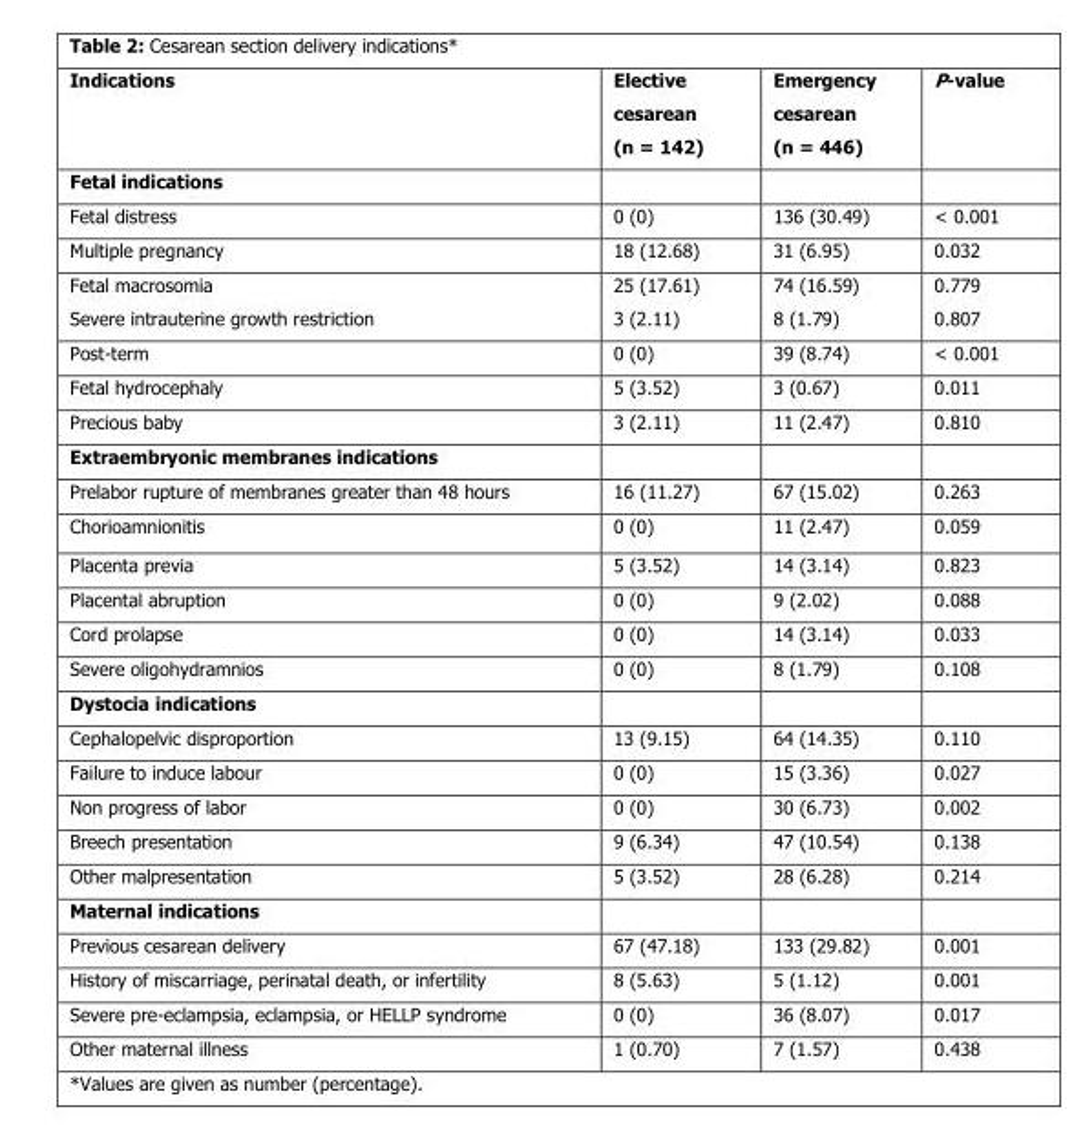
<table><thead><tr><td>Indications</td><td>Elective cesarean (n = 142)</td><td>Emergency cesarean (n = 446)</td><td>P-value</td></tr></thead><tbody><tr><td colspan="4">Fetal indications</td></tr><tr><td>Fetal distress</td><td>0 (0)</td><td>136 (30.49)</td><td>&lt; 0.001</td></tr><tr><td>Multiple pregnancy</td><td>18 (12.68)</td><td>31 (6.95)</td><td>0.032</td></tr><tr><td>Fetal macrosomia Severe intrauterine growth restriction</td><td>25 (17.61) 3 (2.11)</td><td>74 (16.59) 8 (1.79)</td><td>0.779 0.807</td></tr><tr><td>Post-term</td><td>0 (0)</td><td>39 (8.74)</td><td>&lt; 0.001</td></tr><tr><td>Fetal hydrocephaly</td><td>5 (3.52)</td><td>3 (0.67)</td><td>0.011</td></tr><tr><td>Precious baby</td><td>3 (2.11)</td><td>11 (2.47)</td><td>0.810</td></tr><tr><td colspan="4">Extraembryonic membranes indications</td></tr><tr><td>Prelabor rupture of membranes greater than 48 hours</td><td>16 (11.27)</td><td>67 (15.02)</td><td>0.263</td></tr><tr><td>Chorioamnionitis</td><td>0 (0)</td><td>11 (2.47)</td><td>0.059</td></tr><tr><td>Placenta previa</td><td>5 (3.52)</td><td>14 (3.14)</td><td>0.823</td></tr><tr><td>Placental abruption</td><td>0 (0)</td><td>9 (2.02)</td><td>0.088</td></tr><tr><td>Cord prolapse</td><td>0 (0)</td><td>14 (3.14)</td><td>0.033</td></tr><tr><td>Severe oligohydramnios</td><td>0 (0)</td><td>8 (1.79)</td><td>0.108</td></tr><tr><td colspan="4">Dystocia indications</td></tr><tr><td>Cephalopelvic disproportion</td><td>13 (9.15)</td><td>64 (14.35)</td><td>0.110</td></tr><tr><td>Failure to induce labour</td><td>0 (0)</td><td>15 (3.36)</td><td>0.027</td></tr><tr><td>Non progress of labor</td><td>0 (0)</td><td>30 (6.73)</td><td>0.002</td></tr><tr><td>Breech presentation</td><td>9 (6.34)</td><td>47 (10.54)</td><td>0.138</td></tr><tr><td>Other malpresentation</td><td>5 (3.52)</td><td>28 (6.28)</td><td>0.214</td></tr><tr><td colspan="4">Maternal indications</td></tr><tr><td>Previous cesarean delivery</td><td>67 (47.18)</td><td>133 (29.82)</td><td>0.001</td></tr><tr><td>History of miscarriage, perinatal death, or infertility</td><td>8 (5.63)</td><td>5 (1.12)</td><td>0.001</td></tr><tr><td>Severe pre-eclampsia, eclampsia, or HELLP syndrome</td><td>0 (0)</td><td>36 (8.07)</td><td>0.017</td></tr><tr><td>Other maternal illness</td><td>1 (0.70)</td><td>7 (1.57)</td><td>0.438</td></tr></tbody></table>